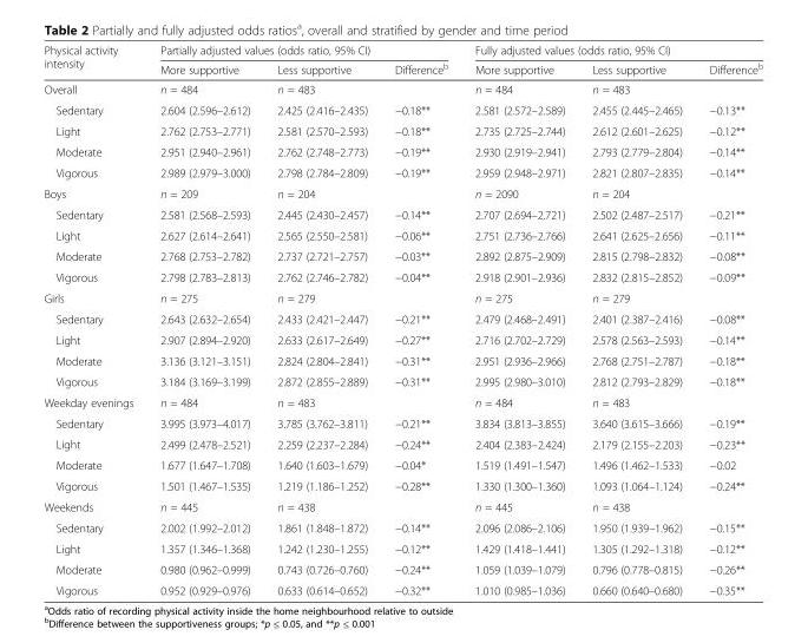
<table><thead><tr><td rowspan="2">Physical activity intensity</td><td colspan="3">Partially adjusted values (odds ratio, 95% CI)</td><td colspan="3">Fully adjusted values (odds ratio, 95% CI)</td></tr><tr><td>More supportive</td><td>Less supportive</td><td>Difference<sup>b</sup></td><td>More supportive</td><td>Less supportive</td><td>Difference<sup>b</sup></td></tr></thead><tbody><tr><td>Overall</td><td>n = 484</td><td>n = 483</td><td></td><td>n = 484</td><td>n = 483</td><td></td></tr><tr><td>Sedentary</td><td>2.604 (2.596–2.612)</td><td>2.425 (2.416–2.435)</td><td>−0.18**</td><td>2.581 (2.572–2.589)</td><td>2.455 (2.445–2.465)</td><td>−0.13**</td></tr><tr><td>Light</td><td>2.762 (2.753–2.771)</td><td>2.581 (2.570–2.593)</td><td>−0.18**</td><td>2.735 (2.725–2.744)</td><td>2.612 (2.601–2.625)</td><td>−0.12**</td></tr><tr><td>Moderate</td><td>2.951 (2.940–2.961)</td><td>2.762 (2.748–2.773)</td><td>−0.19**</td><td>2.930 (2.919–2.941)</td><td>2.793 (2.779–2.804)</td><td>−0.14**</td></tr><tr><td>Vigorous</td><td>2.989 (2.979–3.000)</td><td>2.798 (2.784–2.809)</td><td>−0.19**</td><td>2.959 (2.948–2.971)</td><td>2.821 (2.807–2.835)</td><td>−0.14**</td></tr><tr><td>Boys</td><td>n = 209</td><td>n = 204</td><td></td><td>n = 2090</td><td>n = 204</td><td></td></tr><tr><td>Sedentary</td><td>2.581 (2.568–2.593)</td><td>2.445 (2.430–2.457)</td><td>−0.14**</td><td>2.707 (2.694–2.721)</td><td>2.502 (2.487–2.517)</td><td>−0.21**</td></tr><tr><td>Light</td><td>2.627 (2.614–2.641)</td><td>2.565 (2.550–2.581)</td><td>−0.06**</td><td>2.751 (2.736–2.766)</td><td>2.641 (2.625–2.656)</td><td>−0.11**</td></tr><tr><td>Moderate</td><td>2.768 (2.753–2.782)</td><td>2.737 (2.721–2.757)</td><td>−0.03**</td><td>2.892 (2.875–2.909)</td><td>2.815 (2.798–2.832)</td><td>−0.08**</td></tr><tr><td>Vigorous</td><td>2.798 (2.783–2.813)</td><td>2.762 (2.746–2.782)</td><td>−0.04**</td><td>2.918 (2.901–2.936)</td><td>2.832 (2.815–2.852)</td><td>−0.09**</td></tr><tr><td>Girls</td><td>n = 275</td><td>n = 279</td><td></td><td>n = 275</td><td>n = 279</td><td></td></tr><tr><td>Sedentary</td><td>2.643 (2.632–2.654)</td><td>2.433 (2.421–2.447)</td><td>−0.21**</td><td>2.479 (2.468–2.491)</td><td>2.401 (2.387–2.416)</td><td>−0.08**</td></tr><tr><td>Light</td><td>2.907 (2.894–2.920)</td><td>2.633 (2.617–2.649)</td><td>−0.27**</td><td>2.716 (2.702–2.729)</td><td>2.578 (2.563–2.593)</td><td>−0.14**</td></tr><tr><td>Moderate</td><td>3.136 (3.121–3.151)</td><td>2.824 (2.804–2.841)</td><td>−0.31**</td><td>2.951 (2.936–2.966)</td><td>2.768 (2.751–2.787)</td><td>−0.18**</td></tr><tr><td>Vigorous</td><td>3.184 (3.169–3.199)</td><td>2.872 (2.855–2.889)</td><td>−0.31**</td><td>2.995 (2.980–3.010)</td><td>2.812 (2.793–2.829)</td><td>−0.18**</td></tr><tr><td>Weekday evenings</td><td>n = 484</td><td>n = 483</td><td></td><td>n = 484</td><td>n = 483</td><td></td></tr><tr><td>Sedentary</td><td>3.995 (3.973–4.017)</td><td>3.785 (3.762–3.811)</td><td>−0.21**</td><td>3.834 (3.813–3.855)</td><td>3.640 (3.615–3.666)</td><td>−0.19**</td></tr><tr><td>Light</td><td>2.499 (2.478–2.521)</td><td>2.259 (2.237–2.284)</td><td>−0.24**</td><td>2.404 (2.383–2.424)</td><td>2.179 (2.155–2.203)</td><td>−0.23**</td></tr><tr><td>Moderate</td><td>1.677 (1.647–1.708)</td><td>1.640 (1.603–1.679)</td><td>−0.04*</td><td>1.519 (1.491–1.547)</td><td>1.496 (1.462–1.533)</td><td>−0.02</td></tr><tr><td>Vigorous</td><td>1.501 (1.467–1.535)</td><td>1.219 (1.186–1.252)</td><td>−0.28**</td><td>1.330 (1.300–1.360)</td><td>1.093 (1.064–1.124)</td><td>−0.24**</td></tr><tr><td>Weekends</td><td>n = 445</td><td>n = 438</td><td></td><td>n = 445</td><td>n = 438</td><td></td></tr><tr><td>Sedentary</td><td>2.002 (1.992–2.012)</td><td>1.861 (1.848–1.872)</td><td>−0.14**</td><td>2.096 (2.086–2.106)</td><td>1.950 (1.939–1.962)</td><td>−0.15**</td></tr><tr><td>Light</td><td>1.357 (1.346–1.368)</td><td>1.242 (1.230–1.255)</td><td>−0.12**</td><td>1.429 (1.418–1.441)</td><td>1.305 (1.292–1.318)</td><td>−0.12**</td></tr><tr><td>Moderate</td><td>0.980 (0.962–0.999)</td><td>0.743 (0.726–0.760)</td><td>−0.24**</td><td>1.059 (1.039–1.079)</td><td>0.796 (0.778–0.815)</td><td>−0.26**</td></tr><tr><td>Vigorous</td><td>0.952 (0.929–0.976)</td><td>0.633 (0.614–0.652)</td><td>−0.32**</td><td>1.010 (0.985–1.036)</td><td>0.660 (0.640–0.680)</td><td>−0.35**</td></tr></tbody></table>